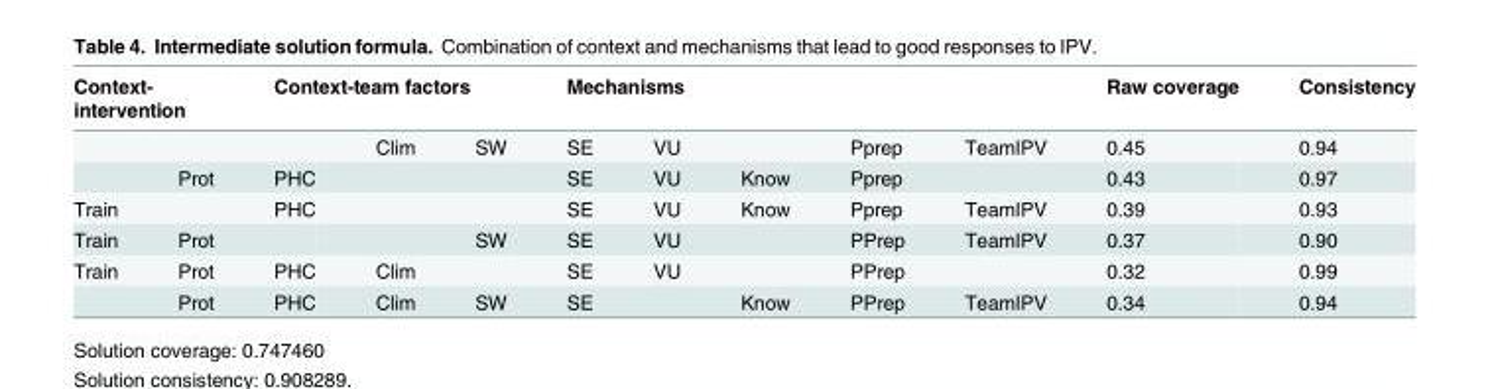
<table><thead><tr><td colspan="2">Context- intervention</td><td colspan="3">Context-team factors</td><td colspan="5">Mechanisms</td><td rowspan="2">Raw coverage 0.45</td><td rowspan="2">Consistency 0.94</td></tr><tr><td></td><td></td><td></td><td>Clim</td><td>SW</td><td>SE</td><td>VU</td><td></td><td>Pprep</td><td>TeamIPV</td></tr></thead><tbody><tr><td></td><td>Prot</td><td>PHC</td><td></td><td></td><td>SE</td><td>VU</td><td>Know</td><td>Pprep</td><td></td><td>0.43</td><td>0.97</td></tr><tr><td>Train</td><td></td><td>PHC</td><td></td><td></td><td>SE</td><td>VU</td><td>Know</td><td>Pprep</td><td>TeamIPV</td><td>0.39</td><td>0.93</td></tr><tr><td>Train</td><td>Prot</td><td></td><td></td><td>SW</td><td>SE</td><td>VU</td><td></td><td>PPrep</td><td>TeamIPV</td><td>0.37</td><td>0.90</td></tr><tr><td rowspan="2">Train</td><td>Prot</td><td>PHC</td><td>Clim</td><td></td><td>SE</td><td>VU</td><td></td><td>PPrep</td><td></td><td>0.32</td><td>0.99</td></tr><tr><td>Prot</td><td>PHC</td><td>Clim</td><td>SW</td><td>SE</td><td></td><td>Know</td><td>PPrep</td><td>TeamIPV</td><td>0.34</td><td>0.94</td></tr></tbody></table>